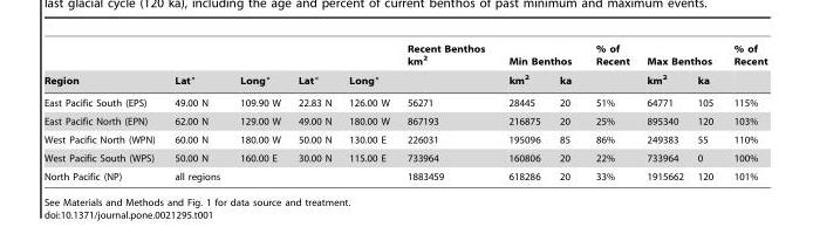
<table><thead><tr><td rowspan="2">Region</td><td rowspan="2">Lat°</td><td rowspan="2">Long°</td><td rowspan="2">Lat°</td><td rowspan="2">Long°</td><td rowspan="2">Recent Benthos km<sup>2</sup></td><td colspan="2">Min Benthos</td><td rowspan="2">% of Recent</td><td colspan="2">Max Benthos</td><td rowspan="2">% of Recent</td></tr><tr><td>km<sup>2</sup></td><td>ka</td><td>km<sup>2</sup></td><td>ka</td></tr></thead><tbody><tr><td>East Pacific South (EPS)</td><td>49.00 N</td><td>109.90 W</td><td>22.83 N</td><td>126.00 W</td><td>56271</td><td>28445</td><td>20</td><td>51%</td><td>64771</td><td>105</td><td>115%</td></tr><tr><td>East Pacific North (EPN)</td><td>62.00 N</td><td>129.00 W</td><td>49.00 N</td><td>180.00 W</td><td>867193</td><td>216875</td><td>20</td><td>25%</td><td>895340</td><td>120</td><td>103%</td></tr><tr><td>West Pacific North (WPN)</td><td>60.00 N</td><td>180.00 W</td><td>50.00 N</td><td>130.00 E</td><td>226031</td><td>195096</td><td>85</td><td>86%</td><td>249383</td><td>55</td><td>110%</td></tr><tr><td>West Pacific South (WPS)</td><td>50.00 N</td><td>160.00 E</td><td>30.00 N</td><td>115.00 E</td><td>733964</td><td>160806</td><td>20</td><td>22%</td><td>733964</td><td>0</td><td>100%</td></tr><tr><td>North Pacific (NP)</td><td colspan="4">all regions</td><td>1883459</td><td>618286</td><td>20</td><td>33%</td><td>1915662</td><td>120</td><td>101%</td></tr></tbody></table>